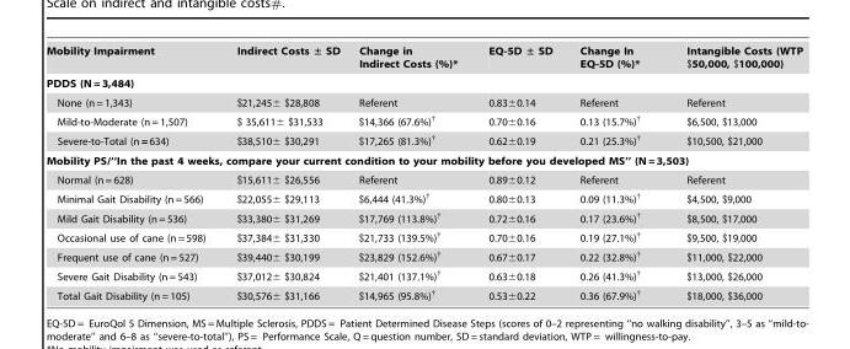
<table><tbody><tr><td>Mobility Impairment</td><td>Indirect Costs ± SD</td><td>Change in Indirect Costs (%)*</td><td>EQ-5D ± SD</td><td>Change In EQ-5D (%)*</td><td>Intangible Costs (WTP $50,000, $100,000)</td></tr><tr><td colspan="6">PDDS (N = 3,484)</td></tr><tr><td>None (n = 1,343)</td><td>$21,245± $28,808</td><td>Referent</td><td>0.83±0.14</td><td>Referent</td><td>Referent</td></tr><tr><td>Mild-to-Moderate (n = 1,507)</td><td>$ 35,611± $31,533</td><td>$14,366 (67.6%)†</td><td>0.70±0.16</td><td>0.13 (15.7%)†</td><td>$6,500, $13,000</td></tr><tr><td>Severe-to-Total (n = 634)</td><td>$38,510± $30,291</td><td>$17,265 (81.3%)†</td><td>0.62±0.19</td><td>0.21 (25.3%)†</td><td>$10,500, $21,000</td></tr><tr><td colspan="6">Mobility PS/‘‘In the past 4 weeks, compare your current condition to your mobility before you developed MS’’ (N = 3,503)</td></tr><tr><td>Normal (n = 628)</td><td>$15,611± $26,556</td><td>Referent</td><td>0.89±0.12</td><td>Referent</td><td>Referent</td></tr><tr><td>Minimal Gait Disability (n = 566)</td><td>$22,055± $29,113</td><td>$6,444 (41.3%)†</td><td>0.80±0.13</td><td>0.09 (11.3%)†</td><td>$4,500, $9,000</td></tr><tr><td>Mild Gait Disability (n = 536)</td><td>$33,380± $31,269</td><td>$17,769 (113.8%)†</td><td>0.72±0.16</td><td>0.17 (23.6%)†</td><td>$8,500, $17,000</td></tr><tr><td>Occasional use of cane (n = 598)</td><td>$37,384± $31,330</td><td>$21,733 (139.5%)†</td><td>0.70±0.16</td><td>0.19 (27.1%)†</td><td>$9,500, $19,000</td></tr><tr><td>Frequent use of cane (n = 527)</td><td>$39,440± $30,199</td><td>$23,829 (152.6%)†</td><td>0.67±0.17</td><td>0.22 (32.8%)†</td><td>$11,000, $22,000</td></tr><tr><td>Severe Gait Disability (n = 543)</td><td>$37,012± $30,824</td><td>$21,401 (137.1%)†</td><td>0.63±0.18</td><td>0.26 (41.3%)†</td><td>$13,000, $26,000</td></tr><tr><td>Total Gait Disability (n = 105)</td><td>$30,576± $31,166</td><td>$14,965 (95.8%)†</td><td>0.53±0.22</td><td>0.36 (67.9%)†</td><td>$18,000, $36,000</td></tr></tbody></table>